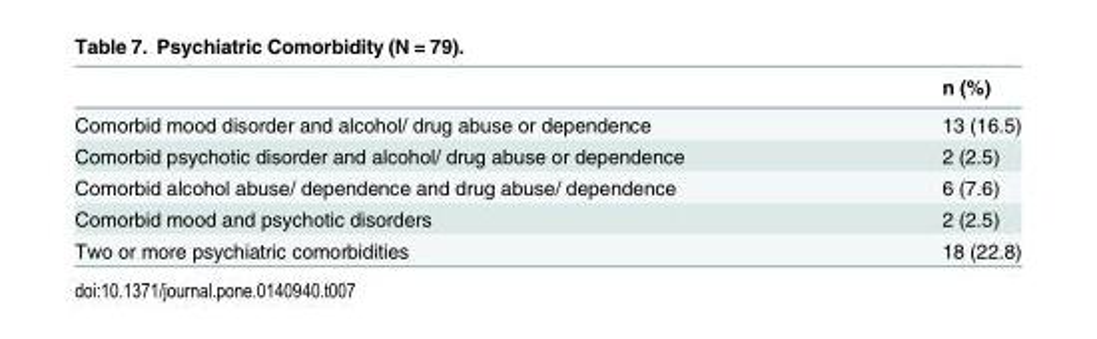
<table><thead><tr><td></td><td>n (%)</td></tr></thead><tbody><tr><td>Comorbid mood disorder and alcohol/ drug abuse or dependence</td><td>13 (16.5)</td></tr><tr><td>Comorbid psychotic disorder and alcohol/ drug abuse or dependence</td><td>2 (2.5)</td></tr><tr><td>Comorbid alcohol abuse/ dependence and drug abuse/ dependence</td><td>6 (7.6)</td></tr><tr><td>Comorbid mood and psychotic disorders</td><td>2 (2.5)</td></tr><tr><td>Two or more psychiatric comorbidities</td><td>18 (22.8)</td></tr></tbody></table>